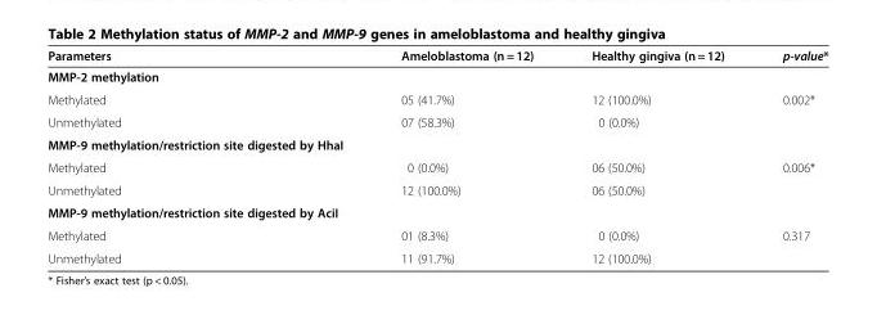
<table><thead><tr><td>Parameters</td><td>Ameloblastoma (n = 12)</td><td>Healthy gingiva (n = 12)</td><td>p-value*</td></tr></thead><tbody><tr><td colspan="4">MMP-2 methylation</td></tr><tr><td>Methylated</td><td>05 (41.7%)</td><td>12 (100.0%)</td><td>0.002*</td></tr><tr><td>Unmethylated</td><td>07 (58.3%)</td><td>0 (0.0%)</td><td></td></tr><tr><td colspan="4">MMP-9 methylation/restriction site digested by HhaI</td></tr><tr><td>Methylated</td><td>0 (0.0%)</td><td>06 (50.0%)</td><td>0.006*</td></tr><tr><td>Unmethylated</td><td>12 (100.0%)</td><td>06 (50.0%)</td><td></td></tr><tr><td colspan="4">MMP-9 methylation/restriction site digested by AciI</td></tr><tr><td>Methylated</td><td>01 (8.3%)</td><td>0 (0.0%)</td><td>0.317</td></tr><tr><td>Unmethylated</td><td>11 (91.7%)</td><td>12 (100.0%)</td><td></td></tr></tbody></table>